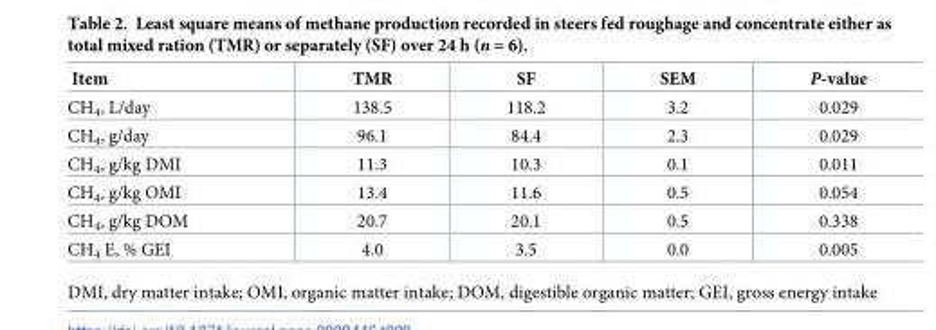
<table><thead><tr><td>Item</td><td>TMR</td><td>SF</td><td>SEM</td><td>P-value</td></tr></thead><tbody><tr><td>CH<sub>4</sub>, L/day</td><td>138.5</td><td>118.2</td><td>3.2</td><td>0.029</td></tr><tr><td>CH<sub>4</sub>, g/day</td><td>96.1</td><td>84.4</td><td>2.3</td><td>0.029</td></tr><tr><td>CH<sub>4</sub>, g/kg DMI</td><td>11.3</td><td>10.3</td><td>0.1</td><td>0.011</td></tr><tr><td>CH<sub>4</sub>, g/kg OMI</td><td>13.4</td><td>11.6</td><td>0.5</td><td>0.054</td></tr><tr><td>CH<sub>4</sub>, g/kg DOM</td><td>20.7</td><td>20.1</td><td>0.5</td><td>0.338</td></tr><tr><td>CH<sub>4</sub> E, % GEI</td><td>4.0</td><td>3.5</td><td>0.0</td><td>0.005</td></tr></tbody></table>